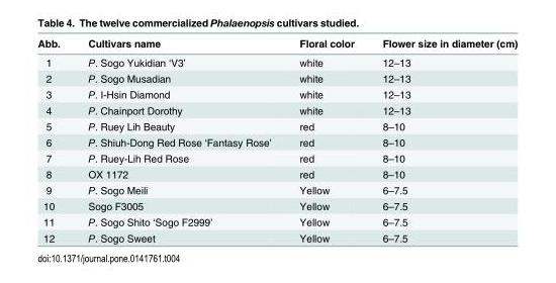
<table><thead><tr><td>Abb.</td><td>Cultivars name</td><td>Floral color</td><td>Flower size in diameter (cm)</td></tr></thead><tbody><tr><td>1</td><td>P. Sogo Yukidian ‘V3’</td><td>white</td><td>12–13</td></tr><tr><td>2</td><td>P. Sogo Musadian</td><td>white</td><td>12–13</td></tr><tr><td>3</td><td>P. I-Hsin Diamond</td><td>white</td><td>12–13</td></tr><tr><td>4</td><td>P. Chainport Dorothy</td><td>white</td><td>12–13</td></tr><tr><td>5</td><td>P. Ruey Lih Beauty</td><td>red</td><td>8–10</td></tr><tr><td>6</td><td>P. Shiuh-Dong Red Rose ‘Fantasy Rose’</td><td>red</td><td>8–10</td></tr><tr><td>7</td><td>P. Ruey-Lih Red Rose</td><td>red</td><td>8–10</td></tr><tr><td>8</td><td>OX 1172</td><td>red</td><td>8–10</td></tr><tr><td>9</td><td>P. Sogo Meili</td><td>Yellow</td><td>6–7.5</td></tr><tr><td>10</td><td>Sogo F3005</td><td>Yellow</td><td>6–7.5</td></tr><tr><td>11</td><td>P. Sogo Shito ‘Sogo F2999’</td><td>Yellow</td><td>6–7.5</td></tr><tr><td>12</td><td>P. Sogo Sweet</td><td>Yellow</td><td>6–7.5</td></tr></tbody></table>